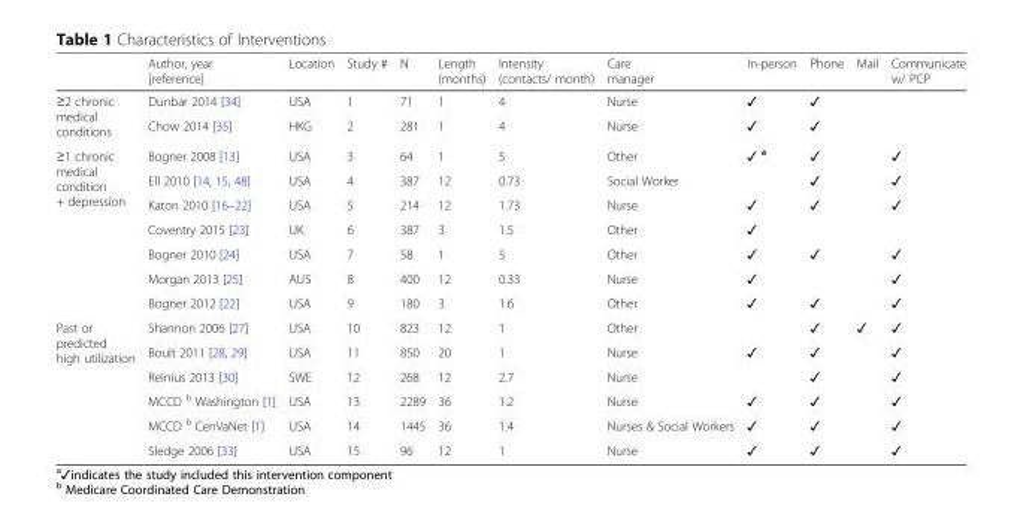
<table><thead><tr><td></td><td>Author, year [reference]</td><td>Location</td><td>Study #</td><td>N</td><td>Length (months)</td><td>Intensity (contacts/ month)</td><td>Care manager</td><td>In-person</td><td>Phone</td><td>Mail</td><td>Communicate w/ PCP</td></tr></thead><tbody><tr><td rowspan="2">≥2 chronic medical conditions</td><td>Dunbar 2014 [34]</td><td>USA</td><td>1</td><td>71</td><td>1</td><td>4</td><td>Nurse</td><td>✓</td><td>✓</td><td></td><td></td></tr><tr><td>Chow 2014 [35]</td><td>HKG</td><td>2</td><td>281</td><td>1</td><td>4</td><td>Nurse</td><td>✓</td><td>✓</td><td></td><td></td></tr><tr><td rowspan="7">≥1 chronic medical condition + depression</td><td>Bogner 2008 [13]</td><td>USA</td><td>3</td><td>64</td><td>1</td><td>5</td><td>Other</td><td>✓ <sup>a</sup></td><td>✓</td><td></td><td>✓</td></tr><tr><td>Ell 2010 [14, 15, 48]</td><td>USA</td><td>4</td><td>387</td><td>12</td><td>0.73</td><td>Social Worker</td><td></td><td>✓</td><td></td><td>✓</td></tr><tr><td>Katon 2010 [16–22]</td><td>USA</td><td>5</td><td>214</td><td>12</td><td>1.73</td><td>Nurse</td><td>✓</td><td>✓</td><td></td><td>✓</td></tr><tr><td>Coventry 2015 [23]</td><td>UK</td><td>6</td><td>387</td><td>3</td><td>1.5</td><td>Other</td><td>✓</td><td></td><td></td><td></td></tr><tr><td>Bogner 2010 [24]</td><td>USA</td><td>7</td><td>58</td><td>1</td><td>5</td><td>Other</td><td>✓</td><td>✓</td><td></td><td>✓</td></tr><tr><td>Morgan 2013 [25]</td><td>AUS</td><td>8</td><td>400</td><td>12</td><td>0.33</td><td>Nurse</td><td>✓</td><td></td><td></td><td>✓</td></tr><tr><td>Bogner 2012 [22]</td><td>USA</td><td>9</td><td>180</td><td>3</td><td>1.6</td><td>Other</td><td>✓</td><td>✓</td><td></td><td>✓</td></tr><tr><td rowspan="6">Past or predicted high utilization</td><td>Shannon 2006 [27]</td><td>USA</td><td>10</td><td>823</td><td>12</td><td>1</td><td>Other</td><td></td><td>✓</td><td>✓</td><td>✓</td></tr><tr><td>Boult 2011 [28, 29]</td><td>USA</td><td>11</td><td>850</td><td>20</td><td>1</td><td>Nurse</td><td>✓</td><td>✓</td><td></td><td>✓</td></tr><tr><td>Reinius 2013 [30]</td><td>SWE</td><td>12</td><td>268</td><td>12</td><td>2.7</td><td>Nurse</td><td></td><td>✓</td><td></td><td>✓</td></tr><tr><td>MCCD <sup>b</sup> Washington [1]</td><td>USA</td><td>13</td><td>2289</td><td>36</td><td>1.2</td><td>Nurse</td><td>✓</td><td>✓</td><td></td><td>✓</td></tr><tr><td>MCCD <sup>b</sup> CenVaNet [1]</td><td>USA</td><td>14</td><td>1445</td><td>36</td><td>1.4</td><td>Nurses &amp; Social Workers</td><td>✓</td><td>✓</td><td></td><td>✓</td></tr><tr><td>Sledge 2006 [33]</td><td>USA</td><td>15</td><td>96</td><td>12</td><td>1</td><td>Nurse</td><td>✓</td><td>✓</td><td></td><td>✓</td></tr></tbody></table>